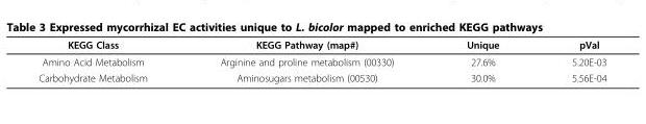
<table><thead><tr><td>KEGG Class</td><td>KEGG Pathway (map#)</td><td>Unique</td><td>pVal</td></tr></thead><tbody><tr><td>Amino Acid Metabolism</td><td>Arginine and proline metabolism (00330)</td><td>27.6%</td><td>5.20E-03</td></tr><tr><td>Carbohydrate Metabolism</td><td>Aminosugars metabolism (00530)</td><td>30.0%</td><td>5.56E-04</td></tr></tbody></table>